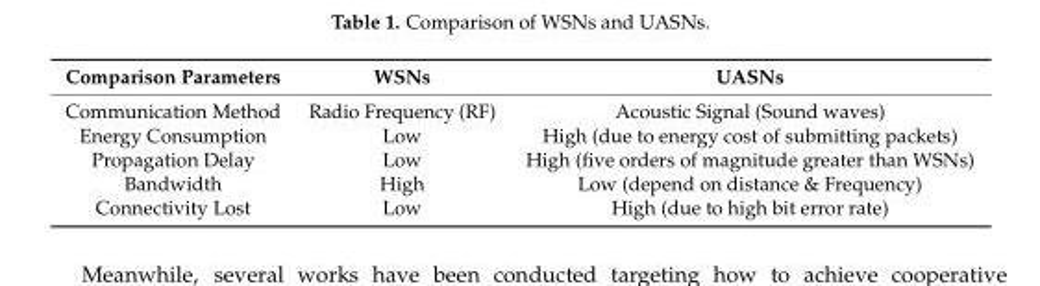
<table><thead><tr><td>Comparison Parameters</td><td>WSNs</td><td>UASNs</td></tr></thead><tbody><tr><td>Communication Method</td><td>Radio Frequency (RF)</td><td>Acoustic Signal (Sound waves)</td></tr><tr><td>Energy Consumption</td><td>Low</td><td>High (due to energy cost of submitting packets)</td></tr><tr><td>Propagation Delay</td><td>Low</td><td>High (five orders of magnitude greater than WSNs)</td></tr><tr><td>Bandwidth</td><td>High</td><td>Low (depend on distance &amp; Frequency)</td></tr><tr><td>Connectivity Lost</td><td>Low</td><td>High (due to high bit error rate)</td></tr></tbody></table>